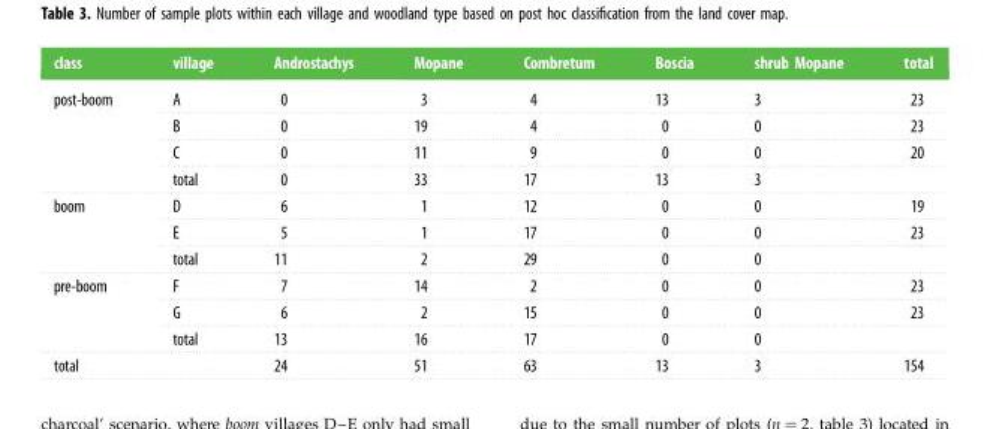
<table><thead><tr><td>class</td><td>village</td><td>Androstachys</td><td>Mopane</td><td>Combretum</td><td>Boscia</td><td>shrub Mopane</td><td>total</td></tr></thead><tbody><tr><td rowspan="4">post-boom</td><td>A</td><td>0</td><td>3</td><td>4</td><td>13</td><td>3</td><td>23</td></tr><tr><td>B</td><td>0</td><td>19</td><td>4</td><td>0</td><td>0</td><td>23</td></tr><tr><td>C</td><td>0</td><td>11</td><td>9</td><td>0</td><td>0</td><td>20</td></tr><tr><td>total</td><td>0</td><td>33</td><td>17</td><td>13</td><td>3</td><td></td></tr><tr><td rowspan="3">boom</td><td>D</td><td>6</td><td>1</td><td>12</td><td>0</td><td>0</td><td>19</td></tr><tr><td>E</td><td>5</td><td>1</td><td>17</td><td>0</td><td>0</td><td>23</td></tr><tr><td>total</td><td>11</td><td>2</td><td>29</td><td>0</td><td>0</td><td></td></tr><tr><td rowspan="3">pre-boom</td><td>F</td><td>7</td><td>14</td><td>2</td><td>0</td><td>0</td><td>23</td></tr><tr><td>G</td><td>6</td><td>2</td><td>15</td><td>0</td><td>0</td><td>23</td></tr><tr><td>total</td><td>13</td><td>16</td><td>17</td><td>0</td><td>0</td><td></td></tr><tr><td>total</td><td></td><td>24</td><td>51</td><td>63</td><td>13</td><td>3</td><td>154</td></tr></tbody></table>